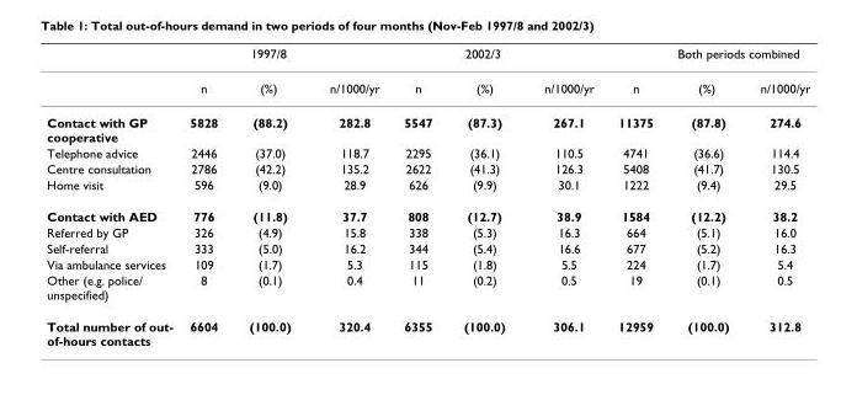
<table><thead><tr><td rowspan="2"></td><td rowspan="2">1997/8 n (%)</td><td rowspan="2">n/1000/yr</td><td rowspan="2">2002/3 n (%)</td><td rowspan="2">n/1000/yr</td><td colspan="2">Both periods combined</td></tr><tr><td>n (%)</td><td>n/1000/yr</td></tr></thead><tbody><tr><td>Contact with GP cooperative</td><td>5828 (88.2)</td><td>282.8</td><td>5547 (87.3)</td><td>267.1</td><td>11375 (87.8)</td><td>274.6</td></tr><tr><td>Telephone advice</td><td>2446 (37.0)</td><td>118.7</td><td>2295 (36.1)</td><td>110.5</td><td>4741 (36.6)</td><td>114.4</td></tr><tr><td>Centre consultation</td><td>2786 (42.2)</td><td>135.2</td><td>2622 (41.3)</td><td>126.3</td><td>5408 (41.7)</td><td>130.5</td></tr><tr><td>Home visit</td><td>596 (9.0)</td><td>28.9</td><td>626 (9.9)</td><td>30.1</td><td>1222 (9.4)</td><td>29.5</td></tr><tr><td>Contact with AED</td><td>776 (11.8)</td><td>37.7</td><td>808 (12.7)</td><td>38.9</td><td>1584 (12.2)</td><td>38.2</td></tr><tr><td>Referred by GP</td><td>326 (4.9)</td><td>15.8</td><td>338 (5.3)</td><td>16.3</td><td>664 (5.1)</td><td>16.0</td></tr><tr><td>Self-referral</td><td>333 (5.0)</td><td>16.2</td><td>344 (5.4)</td><td>16.6</td><td>677 (5.2)</td><td>16.3</td></tr><tr><td>Via ambulance services</td><td>109 (1.7)</td><td>5.3</td><td>115 (1.8)</td><td>5.5</td><td>224 (1.7)</td><td>5.4</td></tr><tr><td>Other (e.g. police/ unspecified)</td><td>8 (0.1)</td><td>0.4</td><td>11 (0.2)</td><td>0.5</td><td>19 (0.1)</td><td>0.5</td></tr><tr><td>Total number of out- of-hours contacts</td><td>6604 (100.0)</td><td>320.4</td><td>6355 (100.0)</td><td>306.1</td><td>12959 (100.0)</td><td>312.8</td></tr></tbody></table>